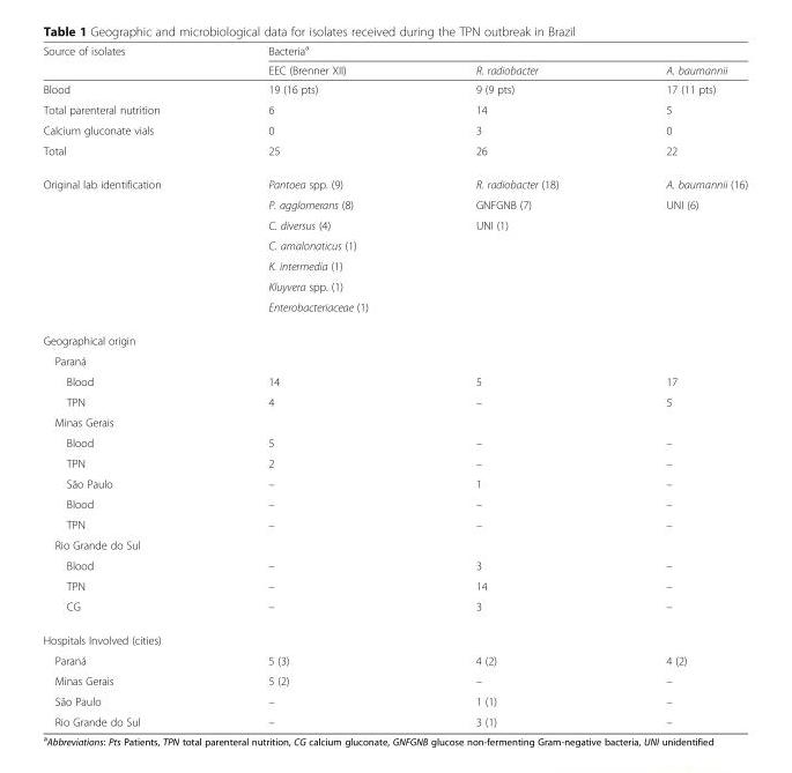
<table><thead><tr><td rowspan="2">Source of isolates</td><td colspan="3">Bacteria<sup>a</sup></td></tr><tr><td>EEC (Brenner XII)</td><td>R. radiobacter</td><td>A. baumannii</td></tr></thead><tbody><tr><td>Blood</td><td>19 (16 pts)</td><td>9 (9 pts)</td><td>17 (11 pts)</td></tr><tr><td>Total parenteral nutrition</td><td>6</td><td>14</td><td>5</td></tr><tr><td>Calcium gluconate vials</td><td>0</td><td>3</td><td>0</td></tr><tr><td>Total</td><td>25</td><td>26</td><td>22</td></tr><tr><td rowspan="7">Original lab identification</td><td>Pantoea spp. (9)</td><td>R. radiobacter (18)</td><td>A. baumannii (16)</td></tr><tr><td>P. agglomerans (8)</td><td>GNFGNB (7)</td><td>UNI (6)</td></tr><tr><td>C. diversus (4)</td><td>UNI (1)</td><td></td></tr><tr><td>C. amalonaticus (1)</td><td></td><td></td></tr><tr><td>K. intermedia (1)</td><td></td><td></td></tr><tr><td>Kluyvera spp. (1)</td><td></td><td></td></tr><tr><td>Enterobacteriaceae (1)</td><td></td><td></td></tr><tr><td colspan="4">Geographical origin</td></tr><tr><td colspan="4">Paraná</td></tr><tr><td>Blood</td><td>14</td><td>5</td><td>17</td></tr><tr><td>TPN</td><td>4</td><td>–</td><td>5</td></tr><tr><td colspan="4">Minas Gerais</td></tr><tr><td>Blood</td><td>5</td><td>–</td><td>–</td></tr><tr><td>TPN</td><td>2</td><td>–</td><td>–</td></tr><tr><td>São Paulo</td><td>–</td><td>1</td><td>–</td></tr><tr><td>Blood</td><td>–</td><td>–</td><td>–</td></tr><tr><td>TPN</td><td>–</td><td>–</td><td>–</td></tr><tr><td colspan="4">Rio Grande do Sul</td></tr><tr><td>Blood</td><td>–</td><td>3</td><td>–</td></tr><tr><td>TPN</td><td>–</td><td>14</td><td>–</td></tr><tr><td>CG</td><td>–</td><td>3</td><td>–</td></tr><tr><td colspan="4">Hospitals Involved (cities)</td></tr><tr><td>Paraná</td><td>5 (3)</td><td>4 (2)</td><td>4 (2)</td></tr><tr><td>Minas Gerais</td><td>5 (2)</td><td>–</td><td>–</td></tr><tr><td>São Paulo</td><td>–</td><td>1 (1)</td><td>–</td></tr><tr><td>Rio Grande do Sul</td><td>–</td><td>3 (1)</td><td>–</td></tr></tbody></table>